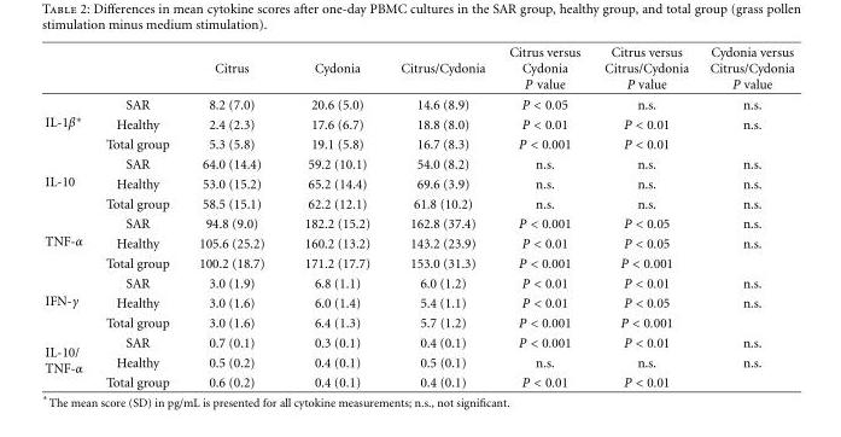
<table><thead><tr><td></td><td></td><td>Citrus</td><td>Cydonia</td><td>Citrus/Cydonia</td><td>Citrus versus Cydonia P value</td><td>Citrus versus Citrus/Cydonia P value</td><td>Cydonia versus Citrus/Cydonia P value</td></tr></thead><tbody><tr><td rowspan="3">IL-1β∗</td><td>SAR</td><td>8.2 (7.0)</td><td>20.6 (5.0)</td><td>14.6 (8.9)</td><td>P &lt; 0.05</td><td>n.s.</td><td>n.s.</td></tr><tr><td>Healthy</td><td>2.4 (2.3)</td><td>17.6 (6.7)</td><td>18.8 (8.0)</td><td>P &lt; 0.01</td><td>P &lt; 0.01</td><td>n.s.</td></tr><tr><td>Total group</td><td>5.3 (5.8)</td><td>19.1 (5.8)</td><td>16.7 (8.3)</td><td>P &lt; 0.001</td><td>P &lt; 0.01</td><td></td></tr><tr><td rowspan="3">IL-10</td><td>SAR</td><td>64.0 (14.4)</td><td>59.2 (10.1)</td><td>54.0 (8.2)</td><td>n.s.</td><td>n.s.</td><td>n.s.</td></tr><tr><td>Healthy</td><td>53.0 (15.2)</td><td>65.2 (14.4)</td><td>69.6 (3.9)</td><td>n.s.</td><td>n.s.</td><td>n.s.</td></tr><tr><td>Total group</td><td>58.5 (15.1)</td><td>62.2 (12.1)</td><td>61.8 (10.2)</td><td>n.s.</td><td>n.s.</td><td>n.s.</td></tr><tr><td rowspan="3">TNF-α</td><td>SAR</td><td>94.8 (9.0)</td><td>182.2 (15.2)</td><td>162.8 (37.4)</td><td>P &lt; 0.001</td><td>P &lt; 0.05</td><td>n.s.</td></tr><tr><td>Healthy</td><td>105.6 (25.2)</td><td>160.2 (13.2)</td><td>143.2 (23.9)</td><td>P &lt; 0.01</td><td>P &lt; 0.05</td><td>n.s.</td></tr><tr><td>Total group</td><td>100.2 (18.7)</td><td>171.2 (17.7)</td><td>153.0 (31.3)</td><td>P &lt; 0.001</td><td>P &lt; 0.001</td><td></td></tr><tr><td rowspan="3">IFN-γ</td><td>SAR</td><td>3.0 (1.9)</td><td>6.8 (1.1)</td><td>6.0 (1.2)</td><td>P &lt; 0.01</td><td>P &lt; 0.01</td><td>n.s.</td></tr><tr><td>Healthy</td><td>3.0 (1.6)</td><td>6.0 (1.4)</td><td>5.4 (1.1)</td><td>P &lt; 0.01</td><td>P &lt; 0.05</td><td>n.s.</td></tr><tr><td>Total group</td><td>3.0 (1.6)</td><td>6.4 (1.3)</td><td>5.7 (1.2)</td><td>P &lt; 0.001</td><td>P &lt; 0.001</td><td></td></tr><tr><td rowspan="3">IL-10/ TNF-α</td><td>SAR</td><td>0.7 (0.1)</td><td>0.3 (0.1)</td><td>0.4 (0.1)</td><td>P &lt; 0.001</td><td>P &lt; 0.01</td><td>n.s.</td></tr><tr><td>Healthy</td><td>0.5 (0.2)</td><td>0.4 (0.1)</td><td>0.5 (0.1)</td><td>n.s.</td><td>n.s.</td><td>n.s.</td></tr><tr><td>Total group</td><td>0.6 (0.2)</td><td>0.4 (0.1)</td><td>0.4 (0.1)</td><td>P &lt; 0.01</td><td>P &lt; 0.01</td><td></td></tr></tbody></table>